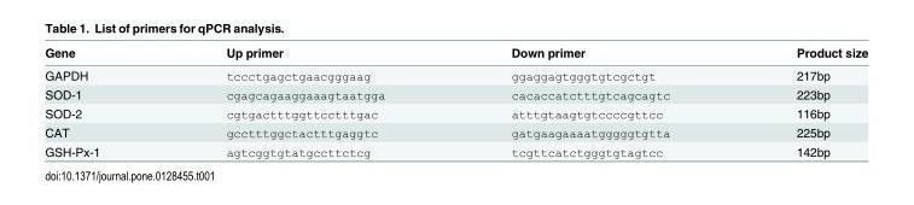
<table><thead><tr><td>Gene</td><td>Up primer</td><td>Down primer</td><td>Product size</td></tr></thead><tbody><tr><td>GAPDH</td><td>tccctgagctgaacgggaag</td><td>ggaggagtgggtgtcgctgt</td><td>217bp</td></tr><tr><td>SOD-1</td><td>cgagcagaaggaaagtaatgga</td><td>cacaccatctttgtcagcagtc</td><td>223bp</td></tr><tr><td>SOD-2</td><td>cgtgactttggttcctttgac</td><td>atttgtaagtgtccccgttcc</td><td>116bp</td></tr><tr><td>CAT</td><td>gcctttggctactttgaggtc</td><td>gatgaagaaaatgggggtgtta</td><td>225bp</td></tr><tr><td>GSH-Px-1</td><td>agtcggtgtatgccttctcg</td><td>tcgttcatctgggtgtagtcc</td><td>142bp</td></tr></tbody></table>